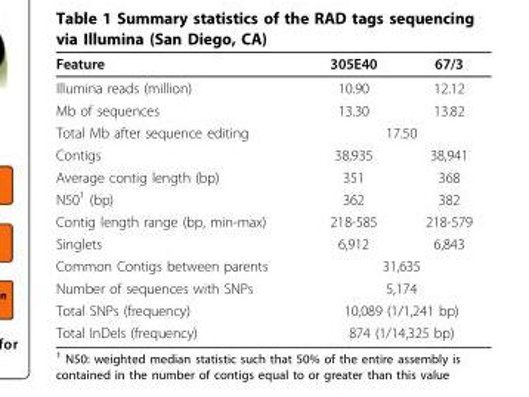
<table><thead><tr><td>Feature</td><td>305E40</td><td>67/3</td></tr></thead><tbody><tr><td>Illumina reads (million)</td><td>10.90</td><td>12.12</td></tr><tr><td>Mb of sequences</td><td>13.30</td><td>13.82</td></tr><tr><td>Total Mb after sequence editing</td><td colspan="2">17.50</td></tr><tr><td>Contigs</td><td>38,935</td><td>38,941</td></tr><tr><td>Average contig length (bp)</td><td>351</td><td>368</td></tr><tr><td>N50<sup>1</sup> (bp)</td><td>362</td><td>382</td></tr><tr><td>Contig length range (bp, min-max)</td><td>218-585</td><td>218-579</td></tr><tr><td>Singlets</td><td>6,912</td><td>6,843</td></tr><tr><td>Common Contigs between parents</td><td colspan="2">31,635</td></tr><tr><td>Number of sequences with SNPs</td><td colspan="2">5,174</td></tr><tr><td>Total SNPs (frequency)</td><td colspan="2">10,089 (1/1,241 bp)</td></tr><tr><td>Total InDels (frequency)</td><td colspan="2">874 (1/14,325 bp)</td></tr></tbody></table>